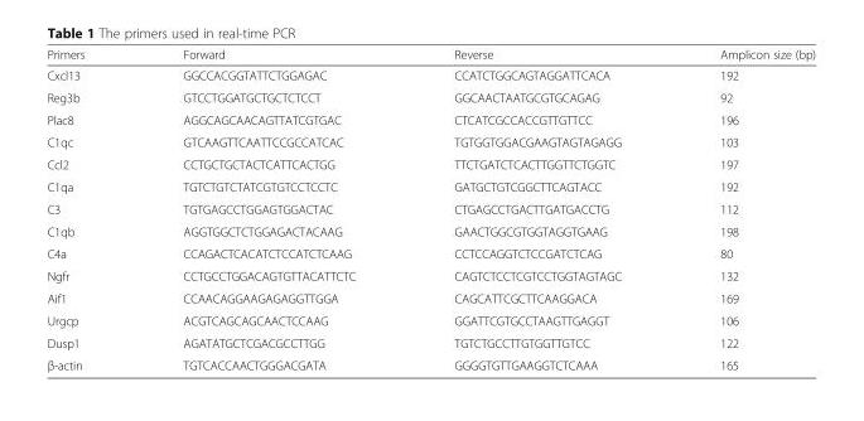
<table><thead><tr><td>Primers</td><td>Forward</td><td>Reverse</td><td>Amplicon size (bp)</td></tr></thead><tbody><tr><td>Cxcl13</td><td>GGCCACGGTATTCTGGAGAC</td><td>CCATCTGGCAGTAGGATTCACA</td><td>192</td></tr><tr><td>Reg3b</td><td>GTCCTGGATGCTGCTCTCCT</td><td>GGCAACTAATGCGTGCAGAG</td><td>92</td></tr><tr><td>Plac8</td><td>AGGCAGCAACAGTTATCGTGAC</td><td>CTCATCGCCACCGTTGTTCC</td><td>196</td></tr><tr><td>C1qc</td><td>GTCAAGTTCAATTCCGCCATCAC</td><td>TGTGGTGGACGAAGTAGTAGAGG</td><td>103</td></tr><tr><td>Ccl2</td><td>CCTGCTGCTACTCATTCACTGG</td><td>TTCTGATCTCACTTGGTTCTGGTC</td><td>197</td></tr><tr><td>C1qa</td><td>TGTCTGTCTATCGTGTCCTCCTC</td><td>GATGCTGTCGGCTTCAGTACC</td><td>192</td></tr><tr><td>C3</td><td>TGTGAGCCTGGAGTGGACTAC</td><td>CTGAGCCTGACTTGATGACCTG</td><td>112</td></tr><tr><td>C1qb</td><td>AGGTGGCTCTGGAGACTACAAG</td><td>GAACTGGCGTGGTAGGTGAAG</td><td>198</td></tr><tr><td>C4a</td><td>CCAGACTCACATCTCCATCTCAAG</td><td>CCTCCAGGTCTCCGATCTCAG</td><td>80</td></tr><tr><td>Ngfr</td><td>CCTGCCTGGACAGTGTTACATTCTC</td><td>CAGTCTCCTCGTCCTGGTAGTAGC</td><td>132</td></tr><tr><td>Aif1</td><td>CCAACAGGAAGAGAGGTTGGA</td><td>CAGCATTCGCTTCAAGGACA</td><td>169</td></tr><tr><td>Urgcp</td><td>ACGTCAGCAGCAACTCCAAG</td><td>GGATTCGTGCCTAAGTTGAGGT</td><td>106</td></tr><tr><td>Dusp1</td><td>AGATATGCTCGACGCCTTGG</td><td>TGTCTGCCTTGTGGTTGTCC</td><td>122</td></tr><tr><td>β-actin</td><td>TGTCACCAACTGGGACGATA</td><td>GGGGTGTTGAAGGTCTCAAA</td><td>165</td></tr></tbody></table>